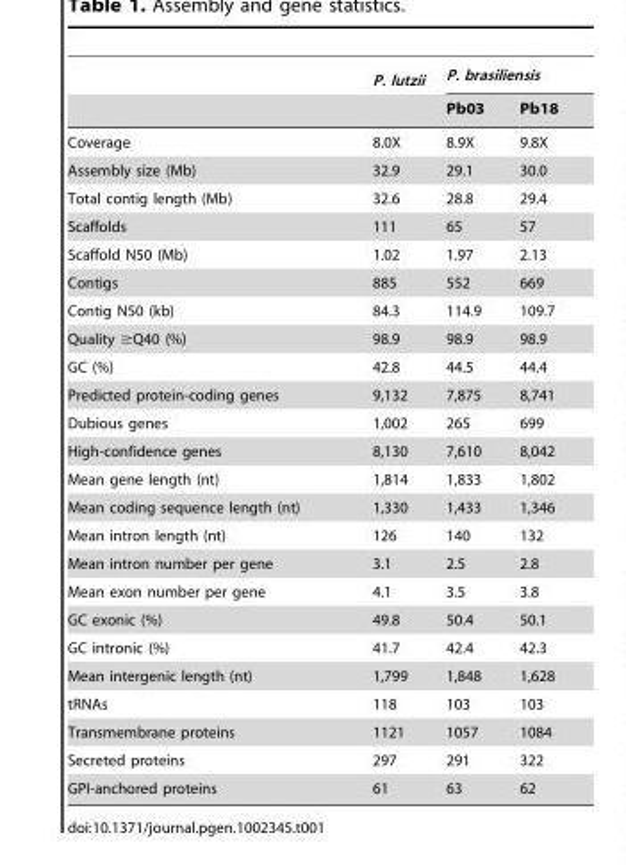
<table><thead><tr><td rowspan="2"></td><td rowspan="2">P. lutzii</td><td colspan="2">P. brasiliensis</td></tr><tr><td>Pb03</td><td>Pb18</td></tr></thead><tbody><tr><td>Coverage</td><td>8.0X</td><td>8.9X</td><td>9.8X</td></tr><tr><td>Assembly size (Mb)</td><td>32.9</td><td>29.1</td><td>30.0</td></tr><tr><td>Total contig length (Mb)</td><td>32.6</td><td>28.8</td><td>29.4</td></tr><tr><td>Scaffolds</td><td>111</td><td>65</td><td>57</td></tr><tr><td>Scaffold N50 (Mb)</td><td>1.02</td><td>1.97</td><td>2.13</td></tr><tr><td>Contigs</td><td>885</td><td>552</td><td>669</td></tr><tr><td>Contig N50 (kb)</td><td>84.3</td><td>114.9</td><td>109.7</td></tr><tr><td>Quality ≥Q40 (%)</td><td>98.9</td><td>98.9</td><td>98.9</td></tr><tr><td>GC (%)</td><td>42.8</td><td>44.5</td><td>44.4</td></tr><tr><td>Predicted protein-coding genes</td><td>9,132</td><td>7,875</td><td>8,741</td></tr><tr><td>Dubious genes</td><td>1,002</td><td>265</td><td>699</td></tr><tr><td>High-confidence genes</td><td>8,130</td><td>7,610</td><td>8,042</td></tr><tr><td>Mean gene length (nt)</td><td>1,814</td><td>1,833</td><td>1,802</td></tr><tr><td>Mean coding sequence length (nt)</td><td>1,330</td><td>1,433</td><td>1,346</td></tr><tr><td>Mean intron length (nt)</td><td>126</td><td>140</td><td>132</td></tr><tr><td>Mean intron number per gene</td><td>3.1</td><td>2.5</td><td>2.8</td></tr><tr><td>Mean exon number per gene</td><td>4.1</td><td>3.5</td><td>3.8</td></tr><tr><td>GC exonic (%)</td><td>49.8</td><td>50.4</td><td>50.1</td></tr><tr><td>GC intronic (%)</td><td>41.7</td><td>42.4</td><td>42.3</td></tr><tr><td>Mean intergenic length (nt)</td><td>1,799</td><td>1,848</td><td>1,628</td></tr><tr><td>tRNAs</td><td>118</td><td>103</td><td>103</td></tr><tr><td>Transmembrane proteins</td><td>1121</td><td>1057</td><td>1084</td></tr><tr><td>Secreted proteins</td><td>297</td><td>291</td><td>322</td></tr><tr><td>GPI-anchored proteins</td><td>61</td><td>63</td><td>62</td></tr></tbody></table>